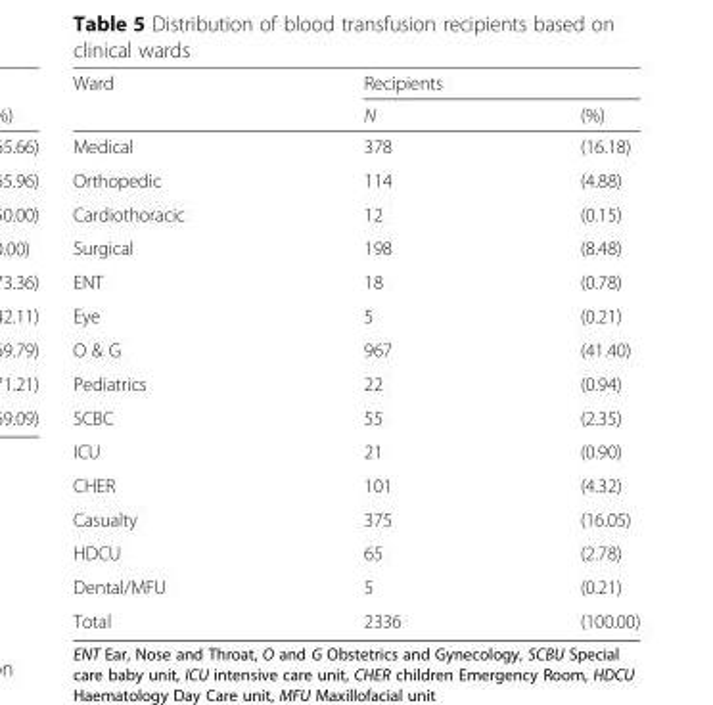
<table><thead><tr><td rowspan="2">Ward</td><td colspan="2">Recipients</td></tr><tr><td>N</td><td>(%)</td></tr></thead><tbody><tr><td>Medical</td><td>378</td><td>(16.18)</td></tr><tr><td>Orthopedic</td><td>114</td><td>(4.88)</td></tr><tr><td>Cardiothoracic</td><td>12</td><td>(0.15)</td></tr><tr><td>Surgical</td><td>198</td><td>(8.48)</td></tr><tr><td>ENT</td><td>18</td><td>(0.78)</td></tr><tr><td>Eye</td><td>5</td><td>(0.21)</td></tr><tr><td>O &amp; G</td><td>967</td><td>(41.40)</td></tr><tr><td>Pediatrics</td><td>22</td><td>(0.94)</td></tr><tr><td>SCBC</td><td>55</td><td>(2.35)</td></tr><tr><td>ICU</td><td>21</td><td>(0.90)</td></tr><tr><td>CHER</td><td>101</td><td>(4.32)</td></tr><tr><td>Casualty</td><td>375</td><td>(16.05)</td></tr><tr><td>HDCU</td><td>65</td><td>(2.78)</td></tr><tr><td>Dental/MFU</td><td>5</td><td>(0.21)</td></tr><tr><td>Total</td><td>2336</td><td>(100.00)</td></tr></tbody></table>